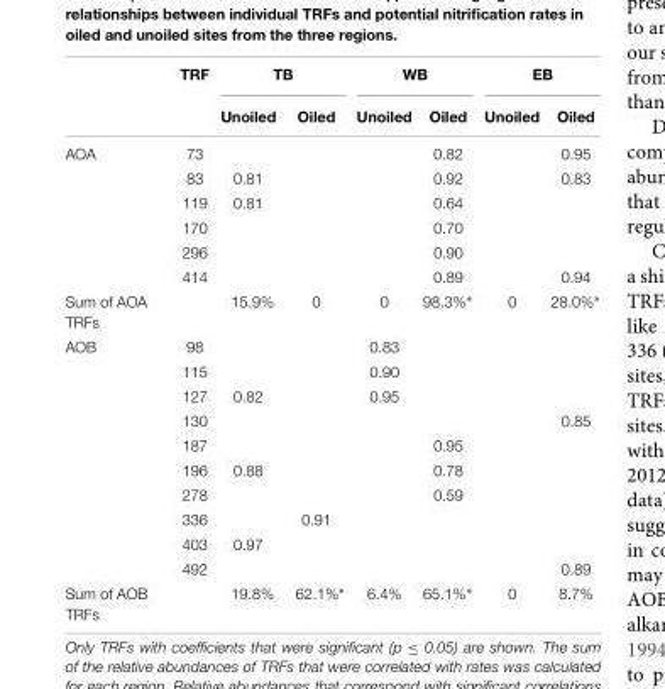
<table><thead><tr><td rowspan="2"></td><td rowspan="2">TRF</td><td colspan="2">TB</td><td colspan="2">WB</td><td colspan="2">EB</td></tr><tr><td>Unoiled</td><td>Oiled</td><td>Unoiled</td><td>Oiled</td><td>Unoiled</td><td>Oiled</td></tr></thead><tbody><tr><td rowspan="6">AOA</td><td>73</td><td></td><td></td><td></td><td>0.82</td><td></td><td>0.95</td></tr><tr><td>83</td><td>0.81</td><td></td><td></td><td>0.92</td><td></td><td>0.83</td></tr><tr><td>119</td><td>0.81</td><td></td><td></td><td>0.64</td><td></td><td></td></tr><tr><td>170</td><td></td><td></td><td></td><td>0.70</td><td></td><td></td></tr><tr><td>296</td><td></td><td></td><td></td><td>0.90</td><td></td><td></td></tr><tr><td>414</td><td></td><td></td><td></td><td>0.89</td><td></td><td>0.94</td></tr><tr><td>Sum of AOA TRFs</td><td></td><td>15.9%</td><td>0</td><td>0</td><td>98.3%∗</td><td>0</td><td>28.0%∗</td></tr><tr><td rowspan="10">AOB</td><td>98</td><td></td><td></td><td>0.83</td><td></td><td></td><td></td></tr><tr><td>115</td><td></td><td></td><td>0.90</td><td></td><td></td><td></td></tr><tr><td>127</td><td>0.82</td><td></td><td>0.95</td><td></td><td></td><td></td></tr><tr><td>130</td><td></td><td></td><td></td><td></td><td></td><td>0.85</td></tr><tr><td>187</td><td></td><td></td><td></td><td>0.95</td><td></td><td></td></tr><tr><td>196</td><td>0.88</td><td></td><td></td><td>0.78</td><td></td><td></td></tr><tr><td>278</td><td></td><td></td><td></td><td>0.59</td><td></td><td></td></tr><tr><td>336</td><td></td><td>0.91</td><td></td><td></td><td></td><td></td></tr><tr><td>403</td><td>0.97</td><td></td><td></td><td></td><td></td><td></td></tr><tr><td>492</td><td></td><td></td><td></td><td></td><td></td><td>0.89</td></tr><tr><td>Sum of AOB TRFs</td><td></td><td>19.8%</td><td>62.1%∗</td><td>6.4%</td><td>65.1%∗</td><td>0</td><td>8.7%</td></tr></tbody></table>